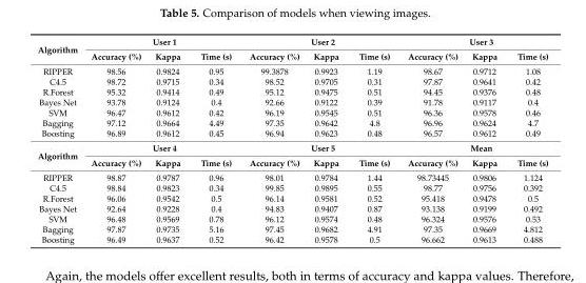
<table><tbody><tr><td rowspan="2">Algorithm</td><td colspan="3">User 1</td><td colspan="3">User 2</td><td colspan="3">User 3</td></tr><tr><td>Accuracy (%)</td><td>Kappa</td><td>Time (s)</td><td>Accuracy (%)</td><td>Kappa</td><td>Time (s)</td><td>Accuracy (%)</td><td>Kappa</td><td>Time (s)</td></tr><tr><td>RIPPER</td><td>98.56</td><td>0.9824</td><td>0.95</td><td>99.3878</td><td>0.9923</td><td>1.19</td><td>98.67</td><td>0.9712</td><td>1.08</td></tr><tr><td>C4.5</td><td>98.72</td><td>0.9715</td><td>0.34</td><td>98.52</td><td>0.9705</td><td>0.31</td><td>97.87</td><td>0.9641</td><td>0.42</td></tr><tr><td>R.Forest</td><td>95.32</td><td>0.9414</td><td>0.49</td><td>95.12</td><td>0.9475</td><td>0.51</td><td>94.45</td><td>0.9376</td><td>0.48</td></tr><tr><td>Bayes Net</td><td>93.78</td><td>0.9124</td><td>0.4</td><td>92.66</td><td>0.9122</td><td>0.39</td><td>91.78</td><td>0.9117</td><td>0.4</td></tr><tr><td>SVM</td><td>96.47</td><td>0.9612</td><td>0.42</td><td>96.19</td><td>0.9545</td><td>0.51</td><td>96.36</td><td>0.9578</td><td>0.46</td></tr><tr><td>Bagging</td><td>97.12</td><td>0.9664</td><td>4.49</td><td>97.35</td><td>0.9642</td><td>4.8</td><td>96.96</td><td>0.9624</td><td>4.7</td></tr><tr><td>Boosting</td><td>96.89</td><td>0.9612</td><td>0.45</td><td>96.94</td><td>0.9623</td><td>0.48</td><td>96.57</td><td>0.9612</td><td>0.49</td></tr><tr><td rowspan="2">Algorithm</td><td colspan="3">User 4</td><td colspan="3">User 5</td><td colspan="3">Mean</td></tr><tr><td>Accuracy (%)</td><td>Kappa</td><td>Time (s)</td><td>Accuracy (%)</td><td>Kappa</td><td>Time (s)</td><td>Accuracy (%)</td><td>Kappa</td><td>Time (s)</td></tr><tr><td>RIPPER</td><td>98.87</td><td>0.9787</td><td>0.96</td><td>98.01</td><td>0.9784</td><td>1.44</td><td>98.73445</td><td>0.9806</td><td>1.124</td></tr><tr><td>C4.5</td><td>98.84</td><td>0.9823</td><td>0.34</td><td>99.85</td><td>0.9895</td><td>0.55</td><td>98.77</td><td>0.9756</td><td>0.392</td></tr><tr><td>R.Forest</td><td>96.06</td><td>0.9542</td><td>0.5</td><td>96.14</td><td>0.9581</td><td>0.52</td><td>95.418</td><td>0.9478</td><td>0.5</td></tr><tr><td>Bayes Net</td><td>92.64</td><td>0.9228</td><td>0.4</td><td>94.83</td><td>0.9407</td><td>0.87</td><td>93.138</td><td>0.9199</td><td>0.492</td></tr><tr><td>SVM</td><td>96.48</td><td>0.9569</td><td>0.78</td><td>96.12</td><td>0.9574</td><td>0.48</td><td>96.324</td><td>0.9576</td><td>0.53</td></tr><tr><td>Bagging</td><td>97.87</td><td>0.9735</td><td>5.16</td><td>97.45</td><td>0.9682</td><td>4.91</td><td>97.35</td><td>0.9669</td><td>4.812</td></tr><tr><td>Boosting</td><td>96.49</td><td>0.9637</td><td>0.52</td><td>96.42</td><td>0.9578</td><td>0.5</td><td>96.662</td><td>0.9613</td><td>0.488</td></tr></tbody></table>